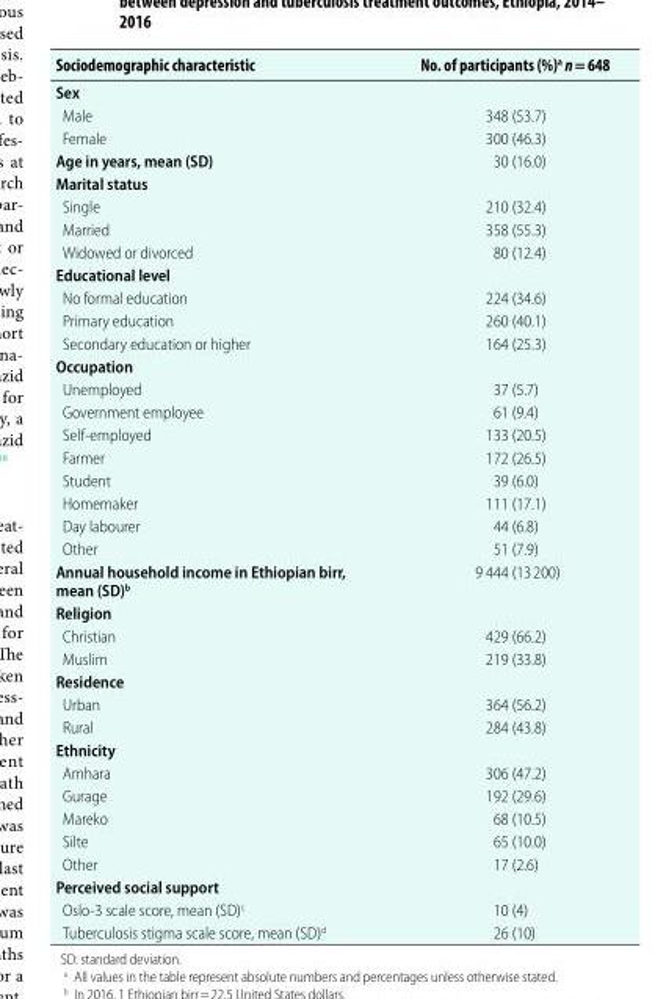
<table><thead><tr><td>Sociodemographic characteristic</td><td>No. of participants (%)<sup>a</sup> n = 648</td></tr></thead><tbody><tr><td colspan="2">Sex</td></tr><tr><td>Male</td><td>348 (53.7)</td></tr><tr><td>Female</td><td>300 (46.3)</td></tr><tr><td>Age in years, mean (SD)</td><td>30 (16.0)</td></tr><tr><td colspan="2">Marital status</td></tr><tr><td>Single</td><td>210 (32.4)</td></tr><tr><td>Married</td><td>358 (55.3)</td></tr><tr><td>Widowed or divorced</td><td>80 (12.4)</td></tr><tr><td colspan="2">Educational level</td></tr><tr><td>No formal education</td><td>224 (34.6)</td></tr><tr><td>Primary education</td><td>260 (40.1)</td></tr><tr><td>Secondary education or higher</td><td>164 (25.3)</td></tr><tr><td colspan="2">Occupation</td></tr><tr><td>Unemployed</td><td>37 (5.7)</td></tr><tr><td>Government employee</td><td>61 (9.4)</td></tr><tr><td>Self-employed</td><td>133 (20.5)</td></tr><tr><td>Farmer</td><td>172 (26.5)</td></tr><tr><td>Student</td><td>39 (6.0)</td></tr><tr><td>Homemaker</td><td>111 (17.1)</td></tr><tr><td>Day labourer</td><td>44 (6.8)</td></tr><tr><td>Other</td><td>51 (7.9)</td></tr><tr><td>Annual household income in Ethiopian birr, mean (SD)<sup>b</sup></td><td>9 444 (13 200)</td></tr><tr><td colspan="2">Religion</td></tr><tr><td>Christian</td><td>429 (66.2)</td></tr><tr><td>Muslim</td><td>219 (33.8)</td></tr><tr><td colspan="2">Residence</td></tr><tr><td>Urban</td><td>364 (56.2)</td></tr><tr><td>Rural</td><td>284 (43.8)</td></tr><tr><td colspan="2">Ethnicity</td></tr><tr><td>Amhara</td><td>306 (47.2)</td></tr><tr><td>Gurage</td><td>192 (29.6)</td></tr><tr><td>Mareko</td><td>68 (10.5)</td></tr><tr><td>Silte</td><td>65 (10.0)</td></tr><tr><td>Other</td><td>17 (2.6)</td></tr><tr><td colspan="2">Perceived social support</td></tr><tr><td>Oslo-3 scale score, mean (SD)<sup>c</sup></td><td>10 (4)</td></tr><tr><td>Tuberculosis stigma scale score, mean (SD)<sup>d</sup></td><td>26 (10)</td></tr></tbody></table>